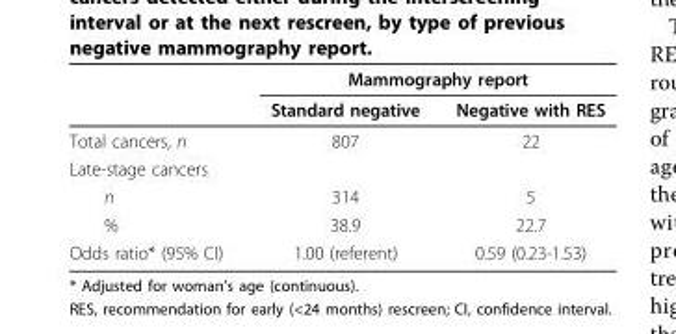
<table><thead><tr><td rowspan="2"></td><td colspan="2">Mammography report</td></tr><tr><td>Standard negative</td><td>Negative with RES</td></tr></thead><tbody><tr><td>Total cancers, n</td><td>807</td><td>22</td></tr><tr><td colspan="3">Late-stage cancers</td></tr><tr><td>n</td><td>314</td><td>5</td></tr><tr><td>%</td><td>38.9</td><td>22.7</td></tr><tr><td>Odds ratio* (95% CI)</td><td>1.00 (referent)</td><td>0.59 (0.23-1.53)</td></tr></tbody></table>